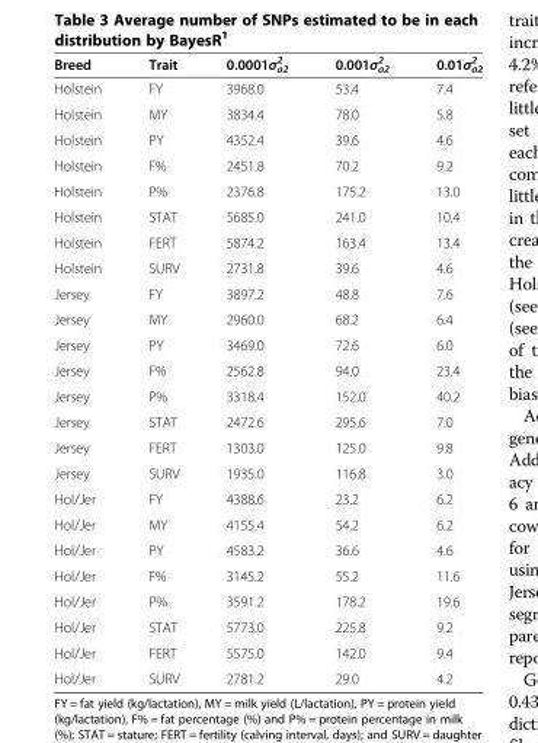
<table><thead><tr><td>Breed</td><td>Trait</td><td>0.0001σ<sup>2</sup> <sub>a2</sub></td><td>0.001σ<sup>2</sup> <sub>a2</sub></td><td>0.01σ<sup>2</sup> <sub>a2</sub></td></tr></thead><tbody><tr><td>Holstein</td><td>FY</td><td>3968.0</td><td>53.4</td><td>7.4</td></tr><tr><td>Holstein</td><td>MY</td><td>3834.4</td><td>78.0</td><td>5.8</td></tr><tr><td>Holstein</td><td>PY</td><td>4352.4</td><td>39.6</td><td>4.6</td></tr><tr><td>Holstein</td><td>F%</td><td>2451.8</td><td>70.2</td><td>9.2</td></tr><tr><td>Holstein</td><td>P%</td><td>2376.8</td><td>175.2</td><td>13.0</td></tr><tr><td>Holstein</td><td>STAT</td><td>5685.0</td><td>241.0</td><td>10.4</td></tr><tr><td>Holstein</td><td>FERT</td><td>5874.2</td><td>163.4</td><td>13.4</td></tr><tr><td>Holstein</td><td>SURV</td><td>2731.8</td><td>39.6</td><td>4.6</td></tr><tr><td>Jersey</td><td>FY</td><td>3897.2</td><td>48.8</td><td>7.6</td></tr><tr><td>Jersey</td><td>MY</td><td>2960.0</td><td>68.2</td><td>6.4</td></tr><tr><td>Jersey</td><td>PY</td><td>3469.0</td><td>72.6</td><td>6.0</td></tr><tr><td>Jersey</td><td>F%</td><td>2562.8</td><td>94.0</td><td>23.4</td></tr><tr><td>Jersey</td><td>P%</td><td>3318.4</td><td>152.0</td><td>40.2</td></tr><tr><td>Jersey</td><td>STAT</td><td>2472.6</td><td>295.6</td><td>7.0</td></tr><tr><td>Jersey</td><td>FERT</td><td>1303.0</td><td>125.0</td><td>9.8</td></tr><tr><td>Jersey</td><td>SURV</td><td>1935.0</td><td>116.8</td><td>3.0</td></tr><tr><td>Hol/Jer</td><td>FY</td><td>4388.6</td><td>23.2</td><td>6.2</td></tr><tr><td>Hol/Jer</td><td>MY</td><td>4155.4</td><td>54.2</td><td>6.2</td></tr><tr><td>Hol/Jer</td><td>PY</td><td>4583.2</td><td>36.6</td><td>4.6</td></tr><tr><td>Hol/Jer</td><td>F%</td><td>3145.2</td><td>55.2</td><td>11.6</td></tr><tr><td>Hol/Jer</td><td>P%</td><td>3591.2</td><td>178.2</td><td>19.6</td></tr><tr><td>Hol/Jer</td><td>STAT</td><td>5773.0</td><td>225.8</td><td>9.2</td></tr><tr><td>Hol/Jer</td><td>FERT</td><td>5575.0</td><td>142.0</td><td>9.4</td></tr><tr><td>Hol/Jer</td><td>SURV</td><td>2781.2</td><td>29.0</td><td>4.2</td></tr></tbody></table>